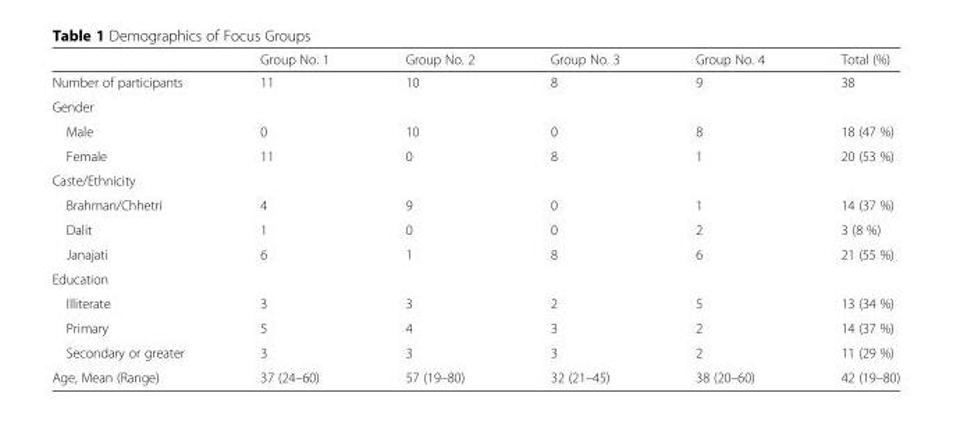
<table><thead><tr><td></td><td>Group No. 1</td><td>Group No. 2</td><td>Group No. 3</td><td>Group No. 4</td><td>Total (%)</td></tr></thead><tbody><tr><td>Number of participants</td><td>11</td><td>10</td><td>8</td><td>9</td><td>38</td></tr><tr><td colspan="6">Gender</td></tr><tr><td>Male</td><td>0</td><td>10</td><td>0</td><td>8</td><td>18 (47 %)</td></tr><tr><td>Female</td><td>11</td><td>0</td><td>8</td><td>1</td><td>20 (53 %)</td></tr><tr><td colspan="6">Caste/Ethnicity</td></tr><tr><td>Brahman/Chhetri</td><td>4</td><td>9</td><td>0</td><td>1</td><td>14 (37 %)</td></tr><tr><td>Dalit</td><td>1</td><td>0</td><td>0</td><td>2</td><td>3 (8 %)</td></tr><tr><td>Janajati</td><td>6</td><td>1</td><td>8</td><td>6</td><td>21 (55 %)</td></tr><tr><td colspan="6">Education</td></tr><tr><td>Illiterate</td><td>3</td><td>3</td><td>2</td><td>5</td><td>13 (34 %)</td></tr><tr><td>Primary</td><td>5</td><td>4</td><td>3</td><td>2</td><td>14 (37 %)</td></tr><tr><td>Secondary or greater</td><td>3</td><td>3</td><td>3</td><td>2</td><td>11 (29 %)</td></tr><tr><td>Age, Mean (Range)</td><td>37 (24–60)</td><td>57 (19–80)</td><td>32 (21–45)</td><td>38 (20–60)</td><td>42 (19–80)</td></tr></tbody></table>